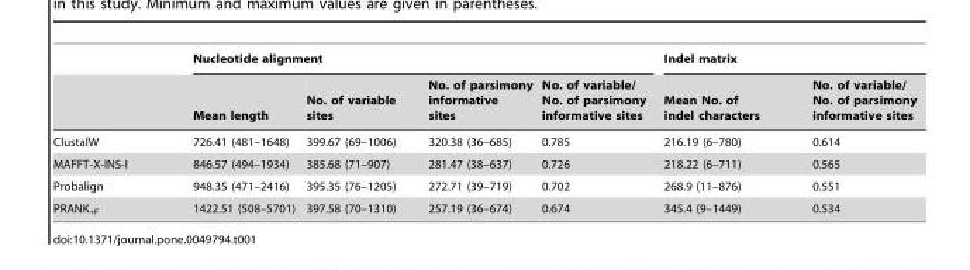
<table><thead><tr><td rowspan="2"></td><td colspan="4">Nucleotide alignment</td><td colspan="2">Indel matrix</td></tr><tr><td>Mean length</td><td>No. of variable sites</td><td>No. of parsimony informative sites</td><td>No. of variable/ No. of parsimony informative sites</td><td>Mean No. of indel characters</td><td>No. of variable/ No. of parsimony informative sites</td></tr></thead><tbody><tr><td>ClustalW</td><td>726.41 (481–1648)</td><td>399.67 (69–1006)</td><td>320.38 (36–685)</td><td>0.785</td><td>216.19 (6–780)</td><td>0.614</td></tr><tr><td>MAFFT-X-INS-I</td><td>846.57 (494–1934)</td><td>385.68 (71–907)</td><td>281.47 (38–637)</td><td>0.726</td><td>218.22 (6–711)</td><td>0.565</td></tr><tr><td>Probalign</td><td>948.35 (471–2416)</td><td>395.35 (76–1205)</td><td>272.71 (39–719)</td><td>0.702</td><td>268.9 (11–876)</td><td>0.551</td></tr><tr><td>PRANK<sub>+F</sub></td><td>1422.51 (508–5701)</td><td>397.58 (70–1310)</td><td>257.19 (36–674)</td><td>0.674</td><td>345.4 (9–1449)</td><td>0.534</td></tr></tbody></table>